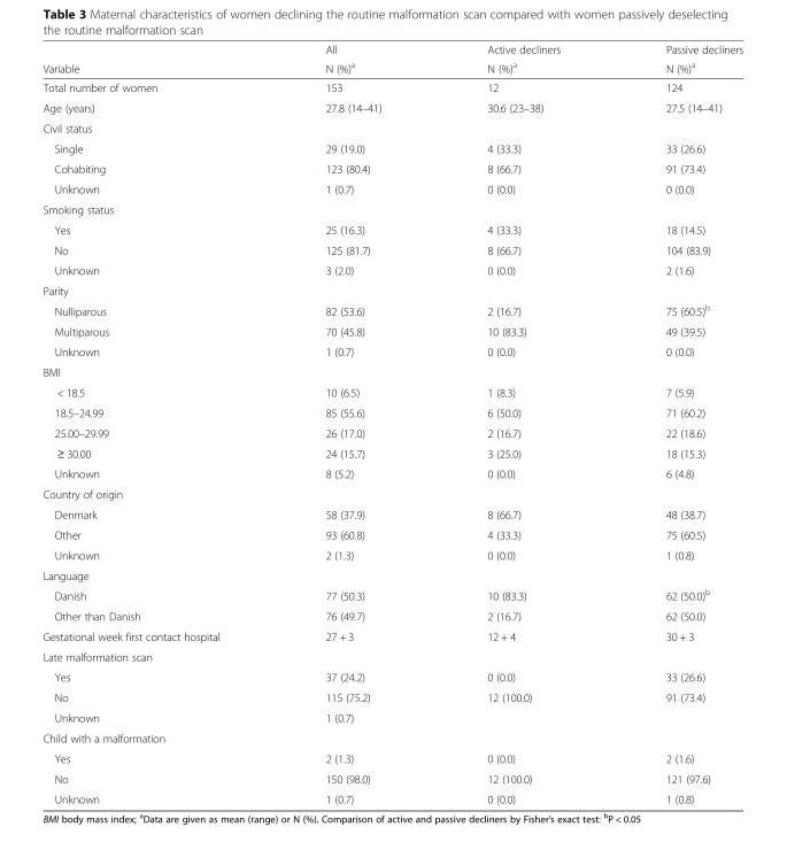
<table><thead><tr><td rowspan="2">Variable</td><td rowspan="2">All N (%)<sup>a</sup></td><td rowspan="2">Active decliners N (%)<sup>a</sup></td><td rowspan="2">Passive decliners N (%)<sup>a</sup></td></tr><tr></tr></thead><tbody><tr><td>Total number of women</td><td>153</td><td>12</td><td>124</td></tr><tr><td>Age (years)</td><td>27.8 (14–41)</td><td>30.6 (23–38)</td><td>27.5 (14–41)</td></tr><tr><td colspan="4">Civil status</td></tr><tr><td>Single</td><td>29 (19.0)</td><td>4 (33.3)</td><td>33 (26.6)</td></tr><tr><td>Cohabiting</td><td>123 (80.4)</td><td>8 (66.7)</td><td>91 (73.4)</td></tr><tr><td>Unknown</td><td>1 (0.7)</td><td>0 (0.0)</td><td>0 (0.0)</td></tr><tr><td colspan="4">Smoking status</td></tr><tr><td>Yes</td><td>25 (16.3)</td><td>4 (33.3)</td><td>18 (14.5)</td></tr><tr><td>No</td><td>125 (81.7)</td><td>8 (66.7)</td><td>104 (83.9)</td></tr><tr><td>Unknown</td><td>3 (2.0)</td><td>0 (0.0)</td><td>2 (1.6)</td></tr><tr><td colspan="4">Parity</td></tr><tr><td>Nulliparous</td><td>82 (53.6)</td><td>2 (16.7)</td><td>75 (60.5)<sup>b</sup></td></tr><tr><td>Multiparous</td><td>70 (45.8)</td><td>10 (83.3)</td><td>49 (39.5)</td></tr><tr><td>Unknown</td><td>1 (0.7)</td><td>0 (0.0)</td><td>0 (0.0)</td></tr><tr><td colspan="4">BMI</td></tr><tr><td>&lt; 18.5</td><td>10 (6.5)</td><td>1 (8.3)</td><td>7 (5.9)</td></tr><tr><td>18.5–24.99</td><td>85 (55.6)</td><td>6 (50.0)</td><td>71 (60.2)</td></tr><tr><td>25.00–29.99</td><td>26 (17.0)</td><td>2 (16.7)</td><td>22 (18.6)</td></tr><tr><td>≥ 30.00</td><td>24 (15.7)</td><td>3 (25.0)</td><td>18 (15.3)</td></tr><tr><td>Unknown</td><td>8 (5.2)</td><td>0 (0.0)</td><td>6 (4.8)</td></tr><tr><td colspan="4">Country of origin</td></tr><tr><td>Denmark</td><td>58 (37.9)</td><td>8 (66.7)</td><td>48 (38.7)</td></tr><tr><td>Other</td><td>93 (60.8)</td><td>4 (33.3)</td><td>75 (60.5)</td></tr><tr><td>Unknown</td><td>2 (1.3)</td><td>0 (0.0)</td><td>1 (0.8)</td></tr><tr><td colspan="4">Language</td></tr><tr><td>Danish</td><td>77 (50.3)</td><td>10 (83.3)</td><td>62 (50.0)<sup>b</sup></td></tr><tr><td>Other than Danish</td><td>76 (49.7)</td><td>2 (16.7)</td><td>62 (50.0)</td></tr><tr><td>Gestational week first contact hospital</td><td>27 + 3</td><td>12 + 4</td><td>30 + 3</td></tr><tr><td colspan="4">Late malformation scan</td></tr><tr><td>Yes</td><td>37 (24.2)</td><td>0 (0.0)</td><td>33 (26.6)</td></tr><tr><td>No</td><td>115 (75.2)</td><td>12 (100.0)</td><td>91 (73.4)</td></tr><tr><td>Unknown</td><td>1 (0.7)</td><td></td><td></td></tr><tr><td colspan="4">Child with a malformation</td></tr><tr><td>Yes</td><td>2 (1.3)</td><td>0 (0.0)</td><td>2 (1.6)</td></tr><tr><td>No</td><td>150 (98.0)</td><td>12 (100.0)</td><td>121 (97.6)</td></tr><tr><td>Unknown</td><td>1 (0.7)</td><td>0 (0.0)</td><td>1 (0.8)</td></tr></tbody></table>